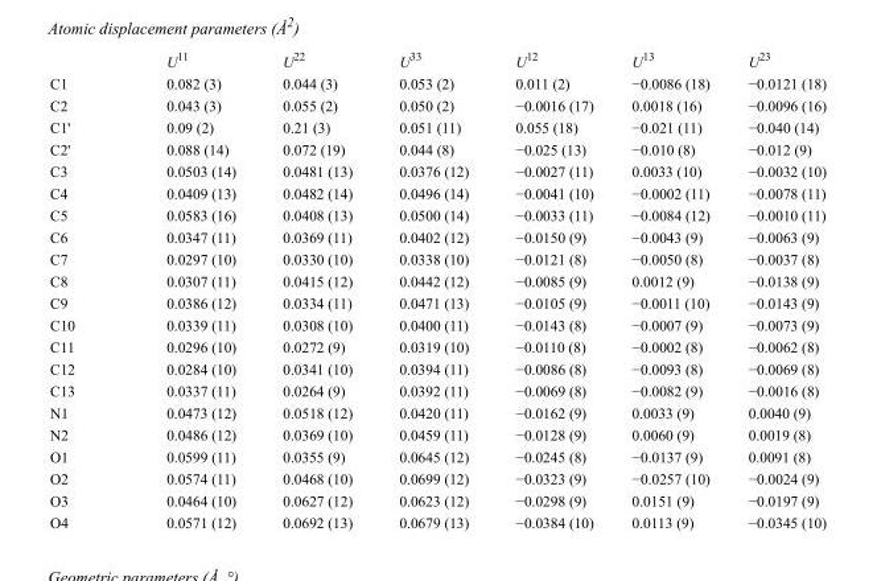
<table><thead><tr><td></td><td>U<sup>11</sup></td><td>U<sup>22</sup></td><td>U<sup>33</sup></td><td>U<sup>12</sup></td><td>U<sup>13</sup></td><td>U<sup>23</sup></td></tr></thead><tbody><tr><td>C1</td><td>0.082 (3)</td><td>0.044 (3)</td><td>0.053 (2)</td><td>0.011 (2)</td><td>−0.0086 (18)</td><td>−0.0121 (18)</td></tr><tr><td>C2</td><td>0.043 (3)</td><td>0.055 (2)</td><td>0.050 (2)</td><td>−0.0016 (17)</td><td>0.0018 (16)</td><td>−0.0096 (16)</td></tr><tr><td>C1&#x27;</td><td>0.09 (2)</td><td>0.21 (3)</td><td>0.051 (11)</td><td>0.055 (18)</td><td>−0.021 (11)</td><td>−0.040 (14)</td></tr><tr><td>C2&#x27;</td><td>0.088 (14)</td><td>0.072 (19)</td><td>0.044 (8)</td><td>−0.025 (13)</td><td>−0.010 (8)</td><td>−0.012 (9)</td></tr><tr><td>C3</td><td>0.0503 (14)</td><td>0.0481 (13)</td><td>0.0376 (12)</td><td>−0.0027 (11)</td><td>0.0033 (10)</td><td>−0.0032 (10)</td></tr><tr><td>C4</td><td>0.0409 (13)</td><td>0.0482 (14)</td><td>0.0496 (14)</td><td>−0.0041 (10)</td><td>−0.0002 (11)</td><td>−0.0078 (11)</td></tr><tr><td>C5</td><td>0.0583 (16)</td><td>0.0408 (13)</td><td>0.0500 (14)</td><td>−0.0033 (11)</td><td>−0.0084 (12)</td><td>−0.0010 (11)</td></tr><tr><td>C6</td><td>0.0347 (11)</td><td>0.0369 (11)</td><td>0.0402 (12)</td><td>−0.0150 (9)</td><td>−0.0043 (9)</td><td>−0.0063 (9)</td></tr><tr><td>C7</td><td>0.0297 (10)</td><td>0.0330 (10)</td><td>0.0338 (10)</td><td>−0.0121 (8)</td><td>−0.0050 (8)</td><td>−0.0037 (8)</td></tr><tr><td>C8</td><td>0.0307 (11)</td><td>0.0415 (12)</td><td>0.0442 (12)</td><td>−0.0085 (9)</td><td>0.0012 (9)</td><td>−0.0138 (9)</td></tr><tr><td>C9</td><td>0.0386 (12)</td><td>0.0334 (11)</td><td>0.0471 (13)</td><td>−0.0105 (9)</td><td>−0.0011 (10)</td><td>−0.0143 (9)</td></tr><tr><td>C10</td><td>0.0339 (11)</td><td>0.0308 (10)</td><td>0.0400 (11)</td><td>−0.0143 (8)</td><td>−0.0007 (9)</td><td>−0.0073 (9)</td></tr><tr><td>C11</td><td>0.0296 (10)</td><td>0.0272 (9)</td><td>0.0319 (10)</td><td>−0.0110 (8)</td><td>−0.0002 (8)</td><td>−0.0062 (8)</td></tr><tr><td>C12</td><td>0.0284 (10)</td><td>0.0341 (10)</td><td>0.0394 (11)</td><td>−0.0086 (8)</td><td>−0.0093 (8)</td><td>−0.0069 (8)</td></tr><tr><td>C13</td><td>0.0337 (11)</td><td>0.0264 (9)</td><td>0.0392 (11)</td><td>−0.0069 (8)</td><td>−0.0082 (9)</td><td>−0.0016 (8)</td></tr><tr><td>N1</td><td>0.0473 (12)</td><td>0.0518 (12)</td><td>0.0420 (11)</td><td>−0.0162 (9)</td><td>0.0033 (9)</td><td>0.0040 (9)</td></tr><tr><td>N2</td><td>0.0486 (12)</td><td>0.0369 (10)</td><td>0.0459 (11)</td><td>−0.0128 (9)</td><td>0.0060 (9)</td><td>0.0019 (8)</td></tr><tr><td>O1</td><td>0.0599 (11)</td><td>0.0355 (9)</td><td>0.0645 (12)</td><td>−0.0245 (8)</td><td>−0.0137 (9)</td><td>0.0091 (8)</td></tr><tr><td>O2</td><td>0.0574 (11)</td><td>0.0468 (10)</td><td>0.0699 (12)</td><td>−0.0323 (9)</td><td>−0.0257 (10)</td><td>−0.0024 (9)</td></tr><tr><td>O3</td><td>0.0464 (10)</td><td>0.0627 (12)</td><td>0.0623 (12)</td><td>−0.0298 (9)</td><td>0.0151 (9)</td><td>−0.0197 (9)</td></tr><tr><td>O4</td><td>0.0571 (12)</td><td>0.0692 (13)</td><td>0.0679 (13)</td><td>−0.0384 (10)</td><td>0.0113 (9)</td><td>−0.0345 (10)</td></tr></tbody></table>